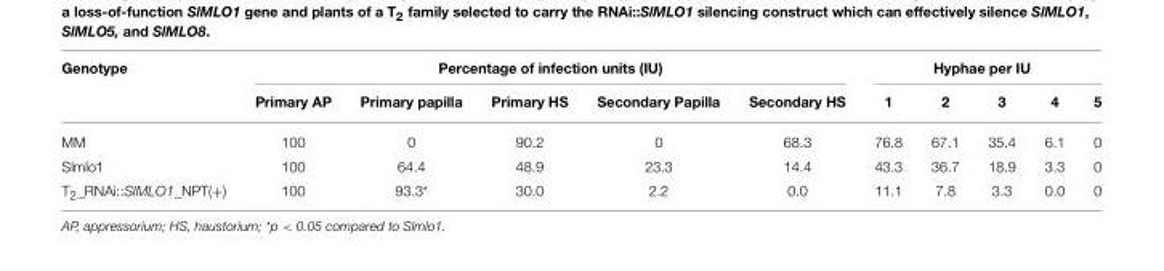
<table><thead><tr><td rowspan="2">Genotype</td><td colspan="5">Percentage of infection units (IU)</td><td colspan="5">Hyphae per IU</td></tr><tr><td>Primary AP</td><td>Primary papilla</td><td>Primary HS</td><td>Secondary Papilla</td><td>Secondary HS</td><td>1</td><td>2</td><td>3</td><td>4</td><td>5</td></tr></thead><tbody><tr><td>MM</td><td>100</td><td>0</td><td>90.2</td><td>0</td><td>68.3</td><td>76.8</td><td>67.1</td><td>35.4</td><td>6.1</td><td>0</td></tr><tr><td>Slmlo1</td><td>100</td><td>64.4</td><td>48.9</td><td>23.3</td><td>14.4</td><td>43.3</td><td>36.7</td><td>18.9</td><td>3.3</td><td>0</td></tr><tr><td>T2_RNAi::SlMLO1_NPT(+)</td><td>100</td><td>93.3*</td><td>30.0</td><td>2.2</td><td>0.0</td><td>11.1</td><td>7.8</td><td>3.3</td><td>0.0</td><td>0</td></tr></tbody></table>